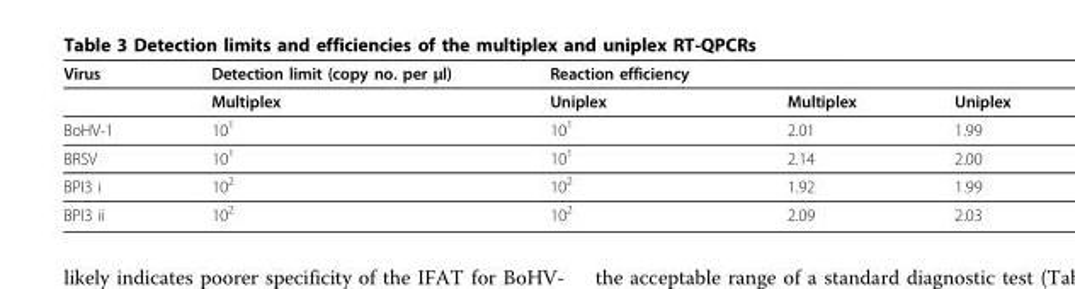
<table><thead><tr><td>Virus</td><td>Detection limit (copy no. per μl)</td><td>Reaction efficiency</td><td></td><td></td></tr></thead><tbody><tr><td></td><td>Multiplex</td><td>Uniplex</td><td>Multiplex</td><td>Uniplex</td></tr><tr><td>BoHV-1</td><td>10<sup>1</sup></td><td>10<sup>1</sup></td><td>2.01</td><td>1.99</td></tr><tr><td>BRSV</td><td>10<sup>1</sup></td><td>10<sup>1</sup></td><td>2.14</td><td>2.00</td></tr><tr><td>BPI3 i</td><td>10<sup>2</sup></td><td>10<sup>2</sup></td><td>1.92</td><td>1.99</td></tr><tr><td>BPI3 ii</td><td>10<sup>2</sup></td><td>10<sup>2</sup></td><td>2.09</td><td>2.03</td></tr></tbody></table>